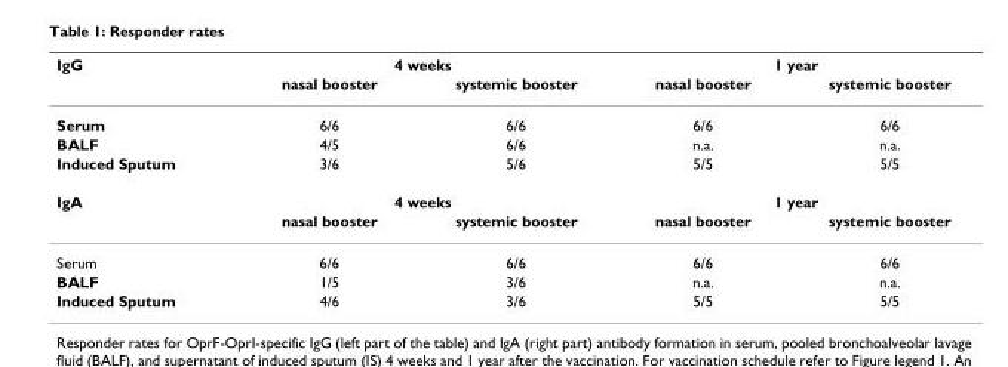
<table><thead><tr><td rowspan="2">IgG</td><td colspan="2">4 weeks</td><td colspan="2">1 year</td></tr><tr><td>nasal booster</td><td>systemic booster</td><td>nasal booster</td><td>systemic booster</td></tr></thead><tbody><tr><td>Serum</td><td>6/6</td><td>6/6</td><td>6/6</td><td>6/6</td></tr><tr><td>BALF</td><td>4/5</td><td>6/6</td><td>n.a.</td><td>n.a.</td></tr><tr><td>Induced Sputum</td><td>3/6</td><td>5/6</td><td>5/5</td><td>5/5</td></tr><tr><td rowspan="2">IgA</td><td colspan="2">4 weeks</td><td colspan="2">1 year</td></tr><tr><td>nasal booster</td><td>systemic booster</td><td>nasal booster</td><td>systemic booster</td></tr><tr><td>Serum</td><td>6/6</td><td>6/6</td><td>6/6</td><td>6/6</td></tr><tr><td>BALF</td><td>1/5</td><td>3/6</td><td>n.a.</td><td>n.a.</td></tr><tr><td>Induced Sputum</td><td>4/6</td><td>3/6</td><td>5/5</td><td>5/5</td></tr></tbody></table>